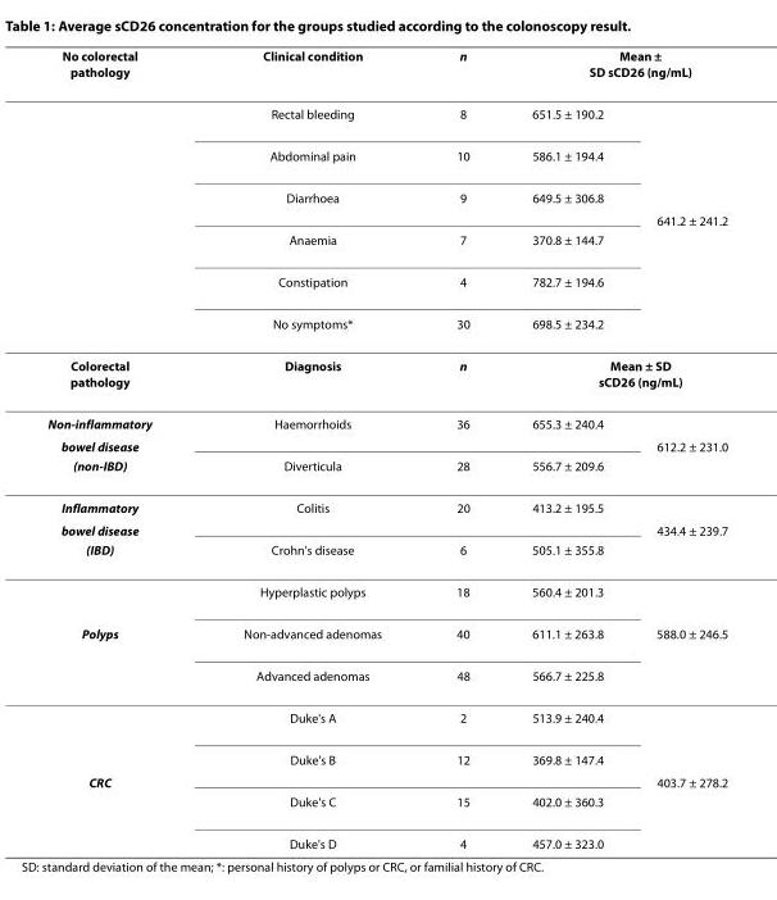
<table><thead><tr><td rowspan="2">No colorectal pathology</td><td rowspan="2">Clinical condition Rectal bleeding</td><td rowspan="2">n 8</td><td colspan="2">Mean ± SD sCD26 (ng/mL)</td></tr><tr><td>651.5 ± 190.2</td><td></td></tr></thead><tbody><tr><td></td><td>Abdominal pain</td><td>10</td><td>586.1 ± 194.4</td><td></td></tr><tr><td></td><td>Diarrhoea</td><td>9</td><td>649.5 ± 306.8</td><td></td></tr><tr><td></td><td colspan="3"></td><td>641.2 ± 241.2</td></tr><tr><td></td><td>Anaemia</td><td>7</td><td>370.8 ± 144.7</td><td></td></tr><tr><td></td><td>Constipation</td><td>4</td><td>782.7 ± 194.6</td><td></td></tr><tr><td></td><td>No symptoms*</td><td>30</td><td>698.5 ± 234.2</td><td></td></tr><tr><td>Colorectal pathology</td><td>Diagnosis</td><td>n</td><td colspan="2">Mean ± SD sCD26 (ng/mL)</td></tr><tr><td>Non-inflammatory</td><td>Haemorrhoids</td><td>36</td><td>655.3 ± 240.4</td><td></td></tr><tr><td>bowel disease</td><td colspan="3"></td><td>612.2 ± 231.0</td></tr><tr><td>(non-IBD)</td><td>Diverticula</td><td>28</td><td>556.7 ± 209.6</td><td></td></tr><tr><td>Inflammatory</td><td>Colitis</td><td>20</td><td>413.2 ± 195.5</td><td></td></tr><tr><td>bowel disease</td><td colspan="3"></td><td>434.4 ± 239.7</td></tr><tr><td rowspan="2">(IBD)</td><td>Crohn&#x27;s disease</td><td>6</td><td>505.1 ± 355.8</td><td></td></tr><tr><td>Hyperplastic polyps</td><td>18</td><td>560.4 ± 201.3</td><td></td></tr><tr><td rowspan="4">Polyps</td><td>Non-advanced adenomas</td><td>40</td><td>611.1 ± 263.8</td><td>588.0 ± 246.5</td></tr><tr><td>Advanced adenomas</td><td>48</td><td>566.7 ± 225.8</td><td></td></tr><tr><td>Duke&#x27;s A</td><td>2</td><td>513.9 ± 240.4</td><td></td></tr><tr><td>Duke&#x27;s B</td><td>12</td><td>369.8 ± 147.4</td><td></td></tr><tr><td rowspan="3">CRC</td><td colspan="3"></td><td>403.7 ± 278.2</td></tr><tr><td>Duke&#x27;s C</td><td>15</td><td>402.0 ± 360.3</td><td></td></tr><tr><td>Duke&#x27;s D</td><td>4</td><td>457.0 ± 323.0</td><td></td></tr></tbody></table>